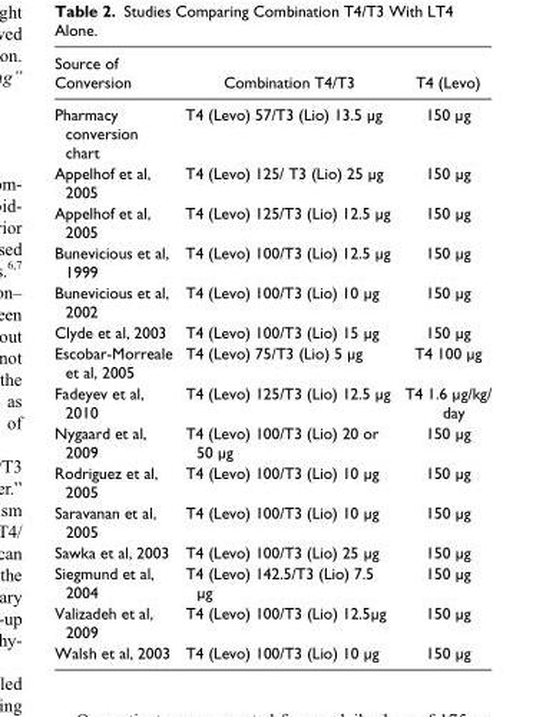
<table><thead><tr><td>Source of Conversion</td><td>Combination T4/T3</td><td>T4 (Levo)</td></tr></thead><tbody><tr><td>Pharmacy conversion chart</td><td>T4 (Levo) 57/T3 (Lio) 13.5 µg</td><td>150 µg</td></tr><tr><td>Appelhof et al, 2005</td><td>T4 (Levo) 125/ T3 (Lio) 25 µg</td><td>150 µg</td></tr><tr><td>Appelhof et al, 2005</td><td>T4 (Levo) 125/T3 (Lio) 12.5 µg</td><td>150 µg</td></tr><tr><td>Bunevicious et al, 1999</td><td>T4 (Levo) 100/T3 (Lio) 12.5 µg</td><td>150 µg</td></tr><tr><td>Bunevicious et al, 2002</td><td>T4 (Levo) 100/T3 (Lio) 10 µg</td><td>150 µg</td></tr><tr><td>Clyde et al, 2003</td><td>T4 (Levo) 100/T3 (Lio) 15 µg</td><td>150 µg</td></tr><tr><td>Escobar-Morreale et al, 2005</td><td>T4 (Levo) 75/T3 (Lio) 5 µg</td><td>T4 100 µg</td></tr><tr><td>Fadeyev et al, 2010</td><td>T4 (Levo) 125/T3 (Lio) 12.5 µg</td><td>T4 1.6 µg/kg/ day</td></tr><tr><td>Nygaard et al, 2009</td><td>T4 (Levo) 100/T3 (Lio) 20 or 50 µg</td><td>150 µg</td></tr><tr><td>Rodriguez et al, 2005</td><td>T4 (Levo) 100/T3 (Lio) 10 µg</td><td>150 µg</td></tr><tr><td>Saravanan et al, 2005</td><td>T4 (Levo) 100/T3 (Lio) 10 µg</td><td>150 µg</td></tr><tr><td>Sawka et al, 2003</td><td>T4 (Levo) 100/T3 (Lio) 25 µg</td><td>150 µg</td></tr><tr><td>Siegmund et al, 2004</td><td>T4 (Levo) 142.5/T3 (Lio) 7.5 µg</td><td>150 µg</td></tr><tr><td>Valizadeh et al, 2009</td><td>T4 (Levo) 100/T3 (Lio) 12.5µg</td><td>150 µg</td></tr><tr><td>Walsh et al, 2003</td><td>T4 (Levo) 100/T3 (Lio) 10 µg</td><td>150 µg</td></tr></tbody></table>